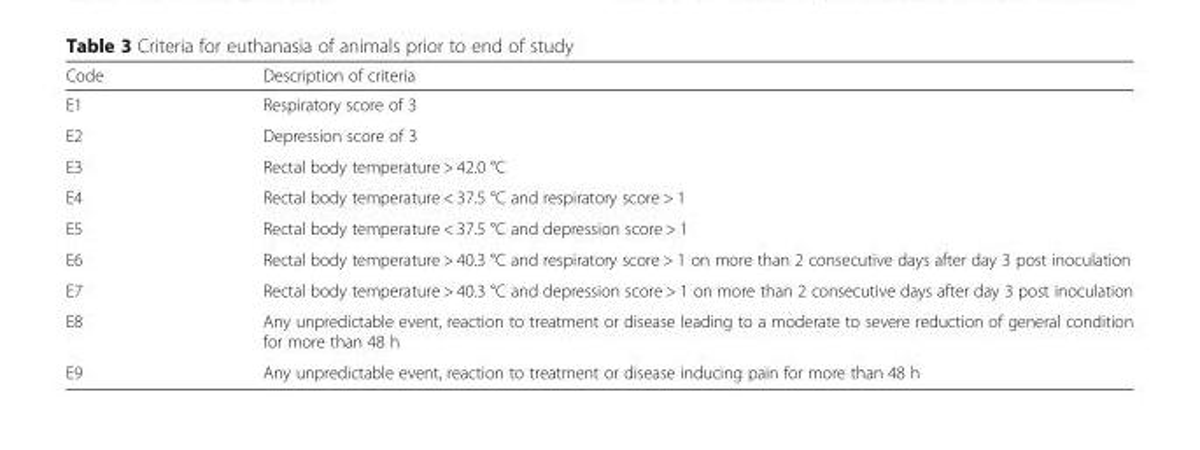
<table><thead><tr><td>Code</td><td>Description of criteria</td></tr></thead><tbody><tr><td>E1</td><td>Respiratory score of 3</td></tr><tr><td>E2</td><td>Depression score of 3</td></tr><tr><td>E3</td><td>Rectal body temperature &gt; 42.0 °C</td></tr><tr><td>E4</td><td>Rectal body temperature &lt; 37.5 °C and respiratory score &gt; 1</td></tr><tr><td>E5</td><td>Rectal body temperature &lt; 37.5 °C and depression score &gt; 1</td></tr><tr><td>E6</td><td>Rectal body temperature &gt; 40.3 °C and respiratory score &gt; 1 on more than 2 consecutive days after day 3 post inoculation</td></tr><tr><td>E7</td><td>Rectal body temperature &gt; 40.3 °C and depression score &gt; 1 on more than 2 consecutive days after day 3 post inoculation</td></tr><tr><td>E8</td><td>Any unpredictable event, reaction to treatment or disease leading to a moderate to severe reduction of general condition for more than 48 h</td></tr><tr><td>E9</td><td>Any unpredictable event, reaction to treatment or disease inducing pain for more than 48 h</td></tr></tbody></table>